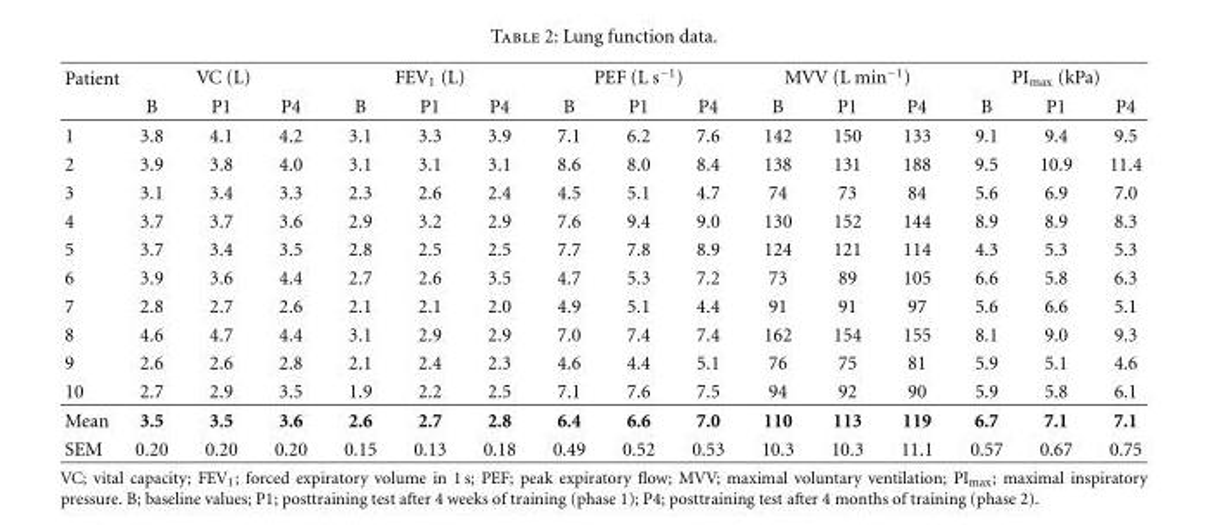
<table><thead><tr><td rowspan="2">Patient</td><td colspan="3">VC (L)</td><td colspan="3">FEV<sub>1</sub> (L)</td><td colspan="3">PEF (L s<sup>−1</sup>)</td><td colspan="3">MVV (L min<sup>−1</sup>)</td><td colspan="3">PI<sub>max</sub> (kPa)</td></tr><tr><td>B</td><td>P1</td><td>P4</td><td>B</td><td>P1</td><td>P4</td><td>B</td><td>P1</td><td>P4</td><td>B</td><td>P1</td><td>P4</td><td>B</td><td>P1</td><td>P4</td></tr></thead><tbody><tr><td>1</td><td>3.8</td><td>4.1</td><td>4.2</td><td>3.1</td><td>3.3</td><td>3.9</td><td>7.1</td><td>6.2</td><td>7.6</td><td>142</td><td>150</td><td>133</td><td>9.1</td><td>9.4</td><td>9.5</td></tr><tr><td>2</td><td>3.9</td><td>3.8</td><td>4.0</td><td>3.1</td><td>3.1</td><td>3.1</td><td>8.6</td><td>8.0</td><td>8.4</td><td>138</td><td>131</td><td>188</td><td>9.5</td><td>10.9</td><td>11.4</td></tr><tr><td>3</td><td>3.1</td><td>3.4</td><td>3.3</td><td>2.3</td><td>2.6</td><td>2.4</td><td>4.5</td><td>5.1</td><td>4.7</td><td>74</td><td>73</td><td>84</td><td>5.6</td><td>6.9</td><td>7.0</td></tr><tr><td>4</td><td>3.7</td><td>3.7</td><td>3.6</td><td>2.9</td><td>3.2</td><td>2.9</td><td>7.6</td><td>9.4</td><td>9.0</td><td>130</td><td>152</td><td>144</td><td>8.9</td><td>8.9</td><td>8.3</td></tr><tr><td>5</td><td>3.7</td><td>3.4</td><td>3.5</td><td>2.8</td><td>2.5</td><td>2.5</td><td>7.7</td><td>7.8</td><td>8.9</td><td>124</td><td>121</td><td>114</td><td>4.3</td><td>5.3</td><td>5.3</td></tr><tr><td>6</td><td>3.9</td><td>3.6</td><td>4.4</td><td>2.7</td><td>2.6</td><td>3.5</td><td>4.7</td><td>5.3</td><td>7.2</td><td>73</td><td>89</td><td>105</td><td>6.6</td><td>5.8</td><td>6.3</td></tr><tr><td>7</td><td>2.8</td><td>2.7</td><td>2.6</td><td>2.1</td><td>2.1</td><td>2.0</td><td>4.9</td><td>5.1</td><td>4.4</td><td>91</td><td>91</td><td>97</td><td>5.6</td><td>6.6</td><td>5.1</td></tr><tr><td>8</td><td>4.6</td><td>4.7</td><td>4.4</td><td>3.1</td><td>2.9</td><td>2.9</td><td>7.0</td><td>7.4</td><td>7.4</td><td>162</td><td>154</td><td>155</td><td>8.1</td><td>9.0</td><td>9.3</td></tr><tr><td>9</td><td>2.6</td><td>2.6</td><td>2.8</td><td>2.1</td><td>2.4</td><td>2.3</td><td>4.6</td><td>4.4</td><td>5.1</td><td>76</td><td>75</td><td>81</td><td>5.9</td><td>5.1</td><td>4.6</td></tr><tr><td>10</td><td>2.7</td><td>2.9</td><td>3.5</td><td>1.9</td><td>2.2</td><td>2.5</td><td>7.1</td><td>7.6</td><td>7.5</td><td>94</td><td>92</td><td>90</td><td>5.9</td><td>5.8</td><td>6.1</td></tr><tr><td>Mean</td><td>3.5</td><td>3.5</td><td>3.6</td><td>2.6</td><td>2.7</td><td>2.8</td><td>6.4</td><td>6.6</td><td>7.0</td><td>110</td><td>113</td><td>119</td><td>6.7</td><td>7.1</td><td>7.1</td></tr><tr><td>SEM</td><td>0.20</td><td>0.20</td><td>0.20</td><td>0.15</td><td>0.13</td><td>0.18</td><td>0.49</td><td>0.52</td><td>0.53</td><td>10.3</td><td>10.3</td><td>11.1</td><td>0.57</td><td>0.67</td><td>0.75</td></tr></tbody></table>